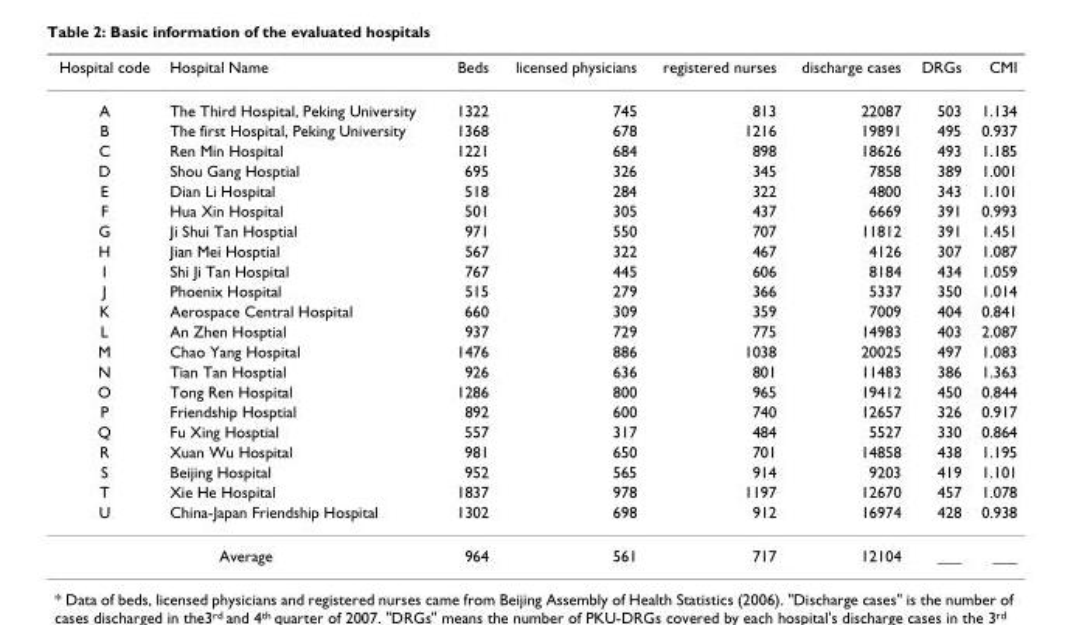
<table><thead><tr><td>Hospital code</td><td>Hospital Name</td><td>Beds</td><td>licensed physicians</td><td>registered nurses</td><td>discharge cases</td><td>DRGs</td><td>CMI</td></tr></thead><tbody><tr><td>A</td><td>The Third Hospital, Peking University</td><td>1322</td><td>745</td><td>813</td><td>22087</td><td>503</td><td>1.134</td></tr><tr><td>B</td><td>The first Hospital, Peking University</td><td>1368</td><td>678</td><td>1216</td><td>19891</td><td>495</td><td>0.937</td></tr><tr><td>C</td><td>Ren Min Hospital</td><td>1221</td><td>684</td><td>898</td><td>18626</td><td>493</td><td>1.185</td></tr><tr><td>D</td><td>Shou Gang Hosptial</td><td>695</td><td>326</td><td>345</td><td>7858</td><td>389</td><td>1.001</td></tr><tr><td>E</td><td>Dian Li Hospital</td><td>518</td><td>284</td><td>322</td><td>4800</td><td>343</td><td>1.101</td></tr><tr><td>F</td><td>Hua Xin Hospital</td><td>501</td><td>305</td><td>437</td><td>6669</td><td>391</td><td>0.993</td></tr><tr><td>G</td><td>Ji Shui Tan Hosptial</td><td>971</td><td>550</td><td>707</td><td>11812</td><td>391</td><td>1.451</td></tr><tr><td>H</td><td>Jian Mei Hosptial</td><td>567</td><td>322</td><td>467</td><td>4126</td><td>307</td><td>1.087</td></tr><tr><td>I</td><td>Shi Ji Tan Hospital</td><td>767</td><td>445</td><td>606</td><td>8184</td><td>434</td><td>1.059</td></tr><tr><td>J</td><td>Phoenix Hospital</td><td>515</td><td>279</td><td>366</td><td>5337</td><td>350</td><td>1.014</td></tr><tr><td>K</td><td>Aerospace Central Hospital</td><td>660</td><td>309</td><td>359</td><td>7009</td><td>404</td><td>0.841</td></tr><tr><td>L</td><td>An Zhen Hosptial</td><td>937</td><td>729</td><td>775</td><td>14983</td><td>403</td><td>2.087</td></tr><tr><td>M</td><td>Chao Yang Hospital</td><td>1476</td><td>886</td><td>1038</td><td>20025</td><td>497</td><td>1.083</td></tr><tr><td>N</td><td>Tian Tan Hosptial</td><td>926</td><td>636</td><td>801</td><td>11483</td><td>386</td><td>1.363</td></tr><tr><td>O</td><td>Tong Ren Hospital</td><td>1286</td><td>800</td><td>965</td><td>19412</td><td>450</td><td>0.844</td></tr><tr><td>P</td><td>Friendship Hosptial</td><td>892</td><td>600</td><td>740</td><td>12657</td><td>326</td><td>0.917</td></tr><tr><td>Q</td><td>Fu Xing Hosptial</td><td>557</td><td>317</td><td>484</td><td>5527</td><td>330</td><td>0.864</td></tr><tr><td>R</td><td>Xuan Wu Hospital</td><td>981</td><td>650</td><td>701</td><td>14858</td><td>438</td><td>1.195</td></tr><tr><td>S</td><td>Beijing Hospital</td><td>952</td><td>565</td><td>914</td><td>9203</td><td>419</td><td>1.101</td></tr><tr><td>T</td><td>Xie He Hospital</td><td>1837</td><td>978</td><td>1197</td><td>12670</td><td>457</td><td>1.078</td></tr><tr><td>U</td><td>China-Japan Friendship Hospital</td><td>1302</td><td>698</td><td>912</td><td>16974</td><td>428</td><td>0.938</td></tr><tr><td colspan="2">Average</td><td>964</td><td>561</td><td>717</td><td>12104</td><td>___</td><td>___</td></tr></tbody></table>